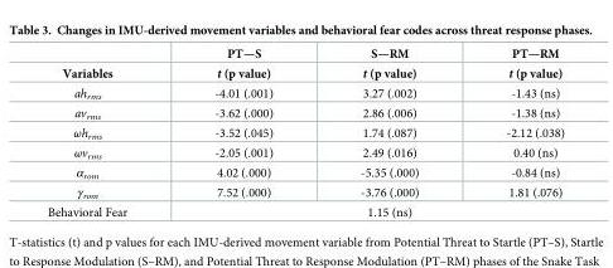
<table><thead><tr><td rowspan="2">Variables</td><td rowspan="2">PT—S t (p value)</td><td rowspan="2">S—RM t (p value)</td><td rowspan="2">PT—RM t (p value)</td></tr><tr></tr></thead><tbody><tr><td>ah<sub>rms</sub></td><td>-4.01 (.001)</td><td>3.27 (.002)</td><td>-1.43 (ns)</td></tr><tr><td>av<sub>rms</sub></td><td>-3.62 (.000)</td><td>2.86 (.006)</td><td>-1.38 (ns)</td></tr><tr><td>ωh<sub>rms</sub></td><td>-3.52 (.045)</td><td>1.74 (.087)</td><td>-2.12 (.038)</td></tr><tr><td>ωv<sub>rms</sub></td><td>-2.05 (.001)</td><td>2.49 (.016)</td><td>0.40 (ns)</td></tr><tr><td>α<sub>rom</sub></td><td>4.02 (.000)</td><td>-5.35 (.000)</td><td>-0.84 (ns)</td></tr><tr><td>γ<sub>rom</sub></td><td>7.52 (.000)</td><td>-3.76 (.000)</td><td>1.81 (.076)</td></tr><tr><td>Behavioral Fear</td><td colspan="3">1.15 (ns)</td></tr></tbody></table>